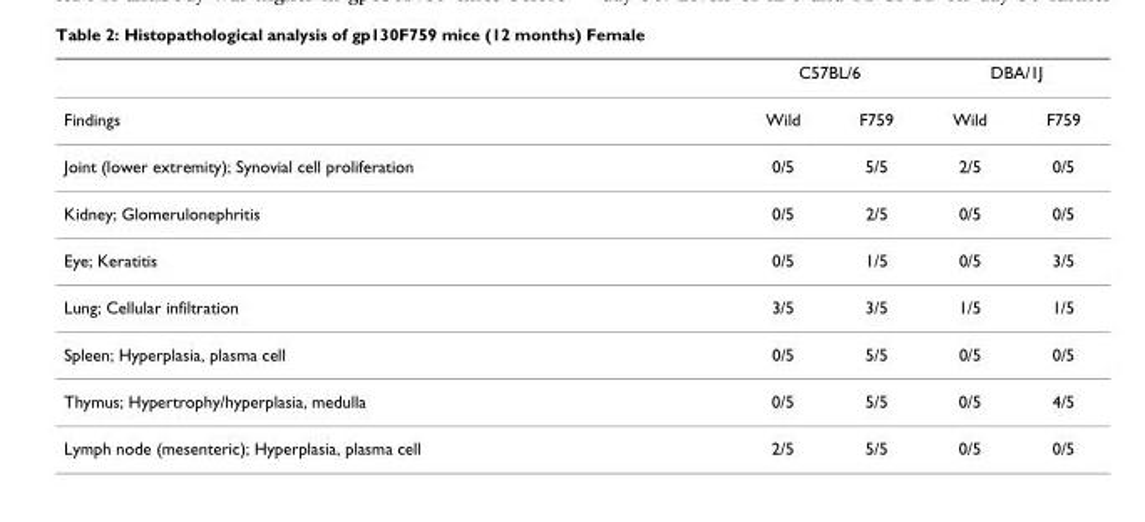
<table><thead><tr><td rowspan="2">Findings</td><td colspan="2">C57BL/6</td><td colspan="2">DBA/1J</td></tr><tr><td>Wild</td><td>F759</td><td>Wild</td><td>F759</td></tr></thead><tbody><tr><td>Joint (lower extremity); Synovial cell proliferation</td><td>0/5</td><td>5/5</td><td>2/5</td><td>0/5</td></tr><tr><td>Kidney; Glomerulonephritis</td><td>0/5</td><td>2/5</td><td>0/5</td><td>0/5</td></tr><tr><td>Eye; Keratitis</td><td>0/5</td><td>1/5</td><td>0/5</td><td>3/5</td></tr><tr><td>Lung; Cellular infiltration</td><td>3/5</td><td>3/5</td><td>1/5</td><td>1/5</td></tr><tr><td>Spleen; Hyperplasia, plasma cell</td><td>0/5</td><td>5/5</td><td>0/5</td><td>0/5</td></tr><tr><td>Thymus; Hypertrophy/hyperplasia, medulla</td><td>0/5</td><td>5/5</td><td>0/5</td><td>4/5</td></tr><tr><td>Lymph node (mesenteric); Hyperplasia, plasma cell</td><td>2/5</td><td>5/5</td><td>0/5</td><td>0/5</td></tr></tbody></table>